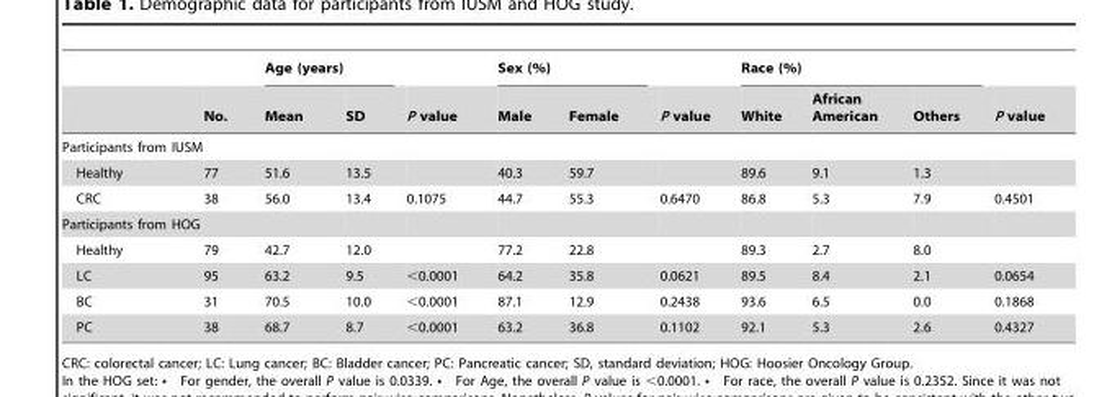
<table><thead><tr><td rowspan="2"></td><td rowspan="2">No.</td><td colspan="2">Age (years)</td><td rowspan="2">P value</td><td colspan="2">Sex (%)</td><td rowspan="2">P value</td><td colspan="3">Race (%)</td><td rowspan="2">P value</td></tr><tr><td>Mean</td><td>SD</td><td>Male</td><td>Female</td><td>White</td><td>African American</td><td>Others</td></tr></thead><tbody><tr><td colspan="12">Participants from IUSM</td></tr><tr><td>Healthy</td><td>77</td><td>51.6</td><td>13.5</td><td></td><td>40.3</td><td>59.7</td><td></td><td>89.6</td><td>9.1</td><td>1.3</td><td></td></tr><tr><td>CRC</td><td>38</td><td>56.0</td><td>13.4</td><td>0.1075</td><td>44.7</td><td>55.3</td><td>0.6470</td><td>86.8</td><td>5.3</td><td>7.9</td><td>0.4501</td></tr><tr><td colspan="12">Participants from HOG</td></tr><tr><td>Healthy</td><td>79</td><td>42.7</td><td>12.0</td><td></td><td>77.2</td><td>22.8</td><td></td><td>89.3</td><td>2.7</td><td>8.0</td><td></td></tr><tr><td>LC</td><td>95</td><td>63.2</td><td>9.5</td><td>&lt;0.0001</td><td>64.2</td><td>35.8</td><td>0.0621</td><td>89.5</td><td>8.4</td><td>2.1</td><td>0.0654</td></tr><tr><td>BC</td><td>31</td><td>70.5</td><td>10.0</td><td>&lt;0.0001</td><td>87.1</td><td>12.9</td><td>0.2438</td><td>93.6</td><td>6.5</td><td>0.0</td><td>0.1868</td></tr><tr><td>PC</td><td>38</td><td>68.7</td><td>8.7</td><td>&lt;0.0001</td><td>63.2</td><td>36.8</td><td>0.1102</td><td>92.1</td><td>5.3</td><td>2.6</td><td>0.4327</td></tr></tbody></table>